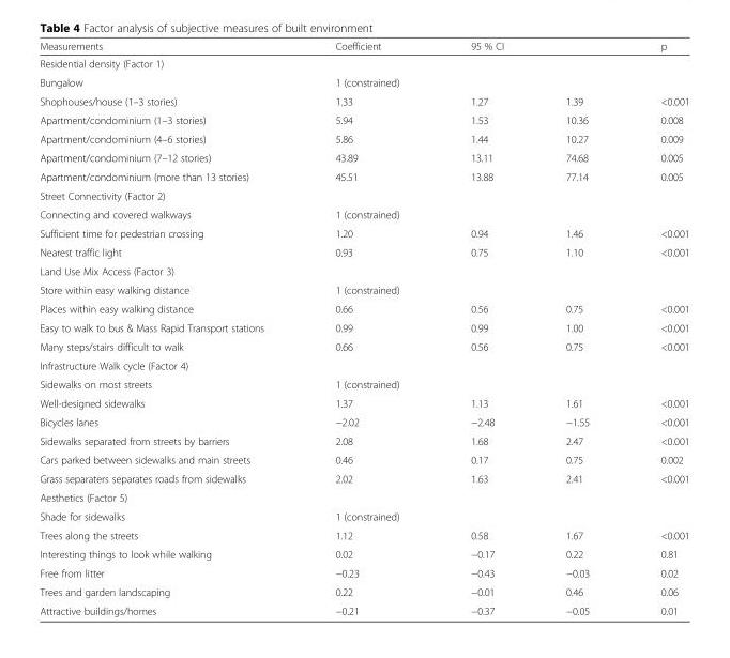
<table><thead><tr><td rowspan="2">Measurements Residential density (Factor 1)</td><td rowspan="2">Coefficient</td><td colspan="2">95 % CI</td><td rowspan="2">p</td></tr><tr><td></td><td></td></tr></thead><tbody><tr><td>Bungalow</td><td>1 (constrained)</td><td></td><td></td><td></td></tr><tr><td>Shophouses/house (1–3 stories)</td><td>1.33</td><td>1.27</td><td>1.39</td><td>&lt;0.001</td></tr><tr><td>Apartment/condominium (1–3 stories)</td><td>5.94</td><td>1.53</td><td>10.36</td><td>0.008</td></tr><tr><td>Apartment/condominium (4–6 stories)</td><td>5.86</td><td>1.44</td><td>10.27</td><td>0.009</td></tr><tr><td>Apartment/condominium (7–12 stories)</td><td>43.89</td><td>13.11</td><td>74.68</td><td>0.005</td></tr><tr><td>Apartment/condominium (more than 13 stories)</td><td>45.51</td><td>13.88</td><td>77.14</td><td>0.005</td></tr><tr><td colspan="5">Street Connectivity (Factor 2)</td></tr><tr><td>Connecting and covered walkways</td><td>1 (constrained)</td><td></td><td></td><td></td></tr><tr><td>Sufficient time for pedestrian crossing</td><td>1.20</td><td>0.94</td><td>1.46</td><td>&lt;0.001</td></tr><tr><td>Nearest traffic light</td><td>0.93</td><td>0.75</td><td>1.10</td><td>&lt;0.001</td></tr><tr><td colspan="5">Land Use Mix Access (Factor 3)</td></tr><tr><td>Store within easy walking distance</td><td>1 (constrained)</td><td></td><td></td><td></td></tr><tr><td>Places within easy walking distance</td><td>0.66</td><td>0.56</td><td>0.75</td><td>&lt;0.001</td></tr><tr><td>Easy to walk to bus &amp; Mass Rapid Transport stations</td><td>0.99</td><td>0.99</td><td>1.00</td><td>&lt;0.001</td></tr><tr><td>Many steps/stairs difficult to walk</td><td>0.66</td><td>0.56</td><td>0.75</td><td>&lt;0.001</td></tr><tr><td colspan="5">Infrastructure Walk cycle (Factor 4)</td></tr><tr><td>Sidewalks on most streets</td><td>1 (constrained)</td><td></td><td></td><td></td></tr><tr><td>Well-designed sidewalks</td><td>1.37</td><td>1.13</td><td>1.61</td><td>&lt;0.001</td></tr><tr><td>Bicycles lanes</td><td>−2.02</td><td>−2.48</td><td>−1.55</td><td>&lt;0.001</td></tr><tr><td>Sidewalks separated from streets by barriers</td><td>2.08</td><td>1.68</td><td>2.47</td><td>&lt;0.001</td></tr><tr><td>Cars parked between sidewalks and main streets</td><td>0.46</td><td>0.17</td><td>0.75</td><td>0.002</td></tr><tr><td>Grass separaters separates roads from sidewalks</td><td>2.02</td><td>1.63</td><td>2.41</td><td>&lt;0.001</td></tr><tr><td colspan="5">Aesthetics (Factor 5)</td></tr><tr><td>Shade for sidewalks</td><td>1 (constrained)</td><td></td><td></td><td></td></tr><tr><td>Trees along the streets</td><td>1.12</td><td>0.58</td><td>1.67</td><td>&lt;0.001</td></tr><tr><td>Interesting things to look while walking</td><td>0.02</td><td>−0.17</td><td>0.22</td><td>0.81</td></tr><tr><td>Free from litter</td><td>−0.23</td><td>−0.43</td><td>−0.03</td><td>0.02</td></tr><tr><td>Trees and garden landscaping</td><td>0.22</td><td>−0.01</td><td>0.46</td><td>0.06</td></tr><tr><td>Attractive buildings/homes</td><td>−0.21</td><td>−0.37</td><td>−0.05</td><td>0.01</td></tr></tbody></table>